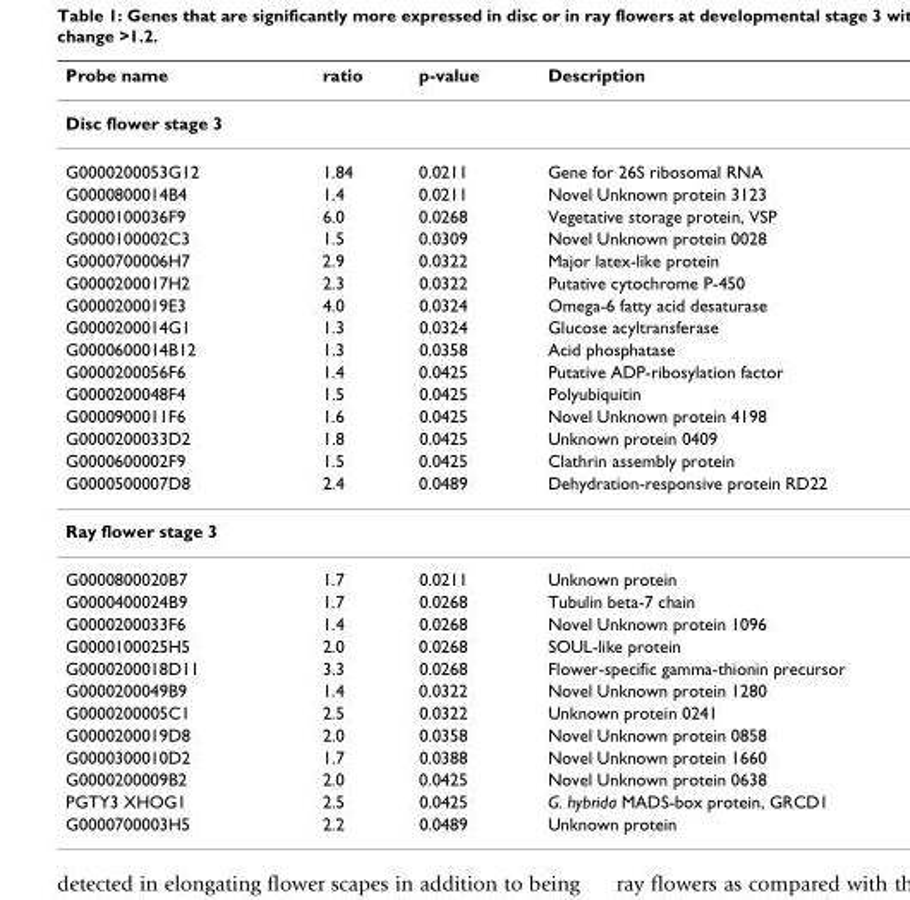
<table><thead><tr><td>Probe name</td><td>ratio</td><td>p-value</td><td>Description</td></tr></thead><tbody><tr><td colspan="4">Disc flower stage 3</td></tr><tr><td>G0000200053G12</td><td>1.84</td><td>0.0211</td><td>Gene for 26S ribosomal RNA</td></tr><tr><td>G0000800014B4</td><td>1.4</td><td>0.0211</td><td>Novel Unknown protein 3123</td></tr><tr><td>G0000100036F9</td><td>6.0</td><td>0.0268</td><td>Vegetative storage protein, VSP</td></tr><tr><td>G0000100002C3</td><td>1.5</td><td>0.0309</td><td>Novel Unknown protein 0028</td></tr><tr><td>G0000700006H7</td><td>2.9</td><td>0.0322</td><td>Major latex-like protein</td></tr><tr><td>G0000200017H2</td><td>2.3</td><td>0.0322</td><td>Putative cytochrome P-450</td></tr><tr><td>G0000200019E3</td><td>4.0</td><td>0.0324</td><td>Omega-6 fatty acid desaturase</td></tr><tr><td>G0000200014G1</td><td>1.3</td><td>0.0324</td><td>Glucose acyltransferase</td></tr><tr><td>G0000600014B12</td><td>1.3</td><td>0.0358</td><td>Acid phosphatase</td></tr><tr><td>G0000200056F6</td><td>1.4</td><td>0.0425</td><td>Putative ADP-ribosylation factor</td></tr><tr><td>G0000200048F4</td><td>1.5</td><td>0.0425</td><td>Polyubiquitin</td></tr><tr><td>G0000900011F6</td><td>1.6</td><td>0.0425</td><td>Novel Unknown protein 4198</td></tr><tr><td>G0000200033D2</td><td>1.8</td><td>0.0425</td><td>Unknown protein 0409</td></tr><tr><td>G0000600002F9</td><td>1.5</td><td>0.0425</td><td>Clathrin assembly protein</td></tr><tr><td>G0000500007D8</td><td>2.4</td><td>0.0489</td><td>Dehydration-responsive protein RD22</td></tr><tr><td colspan="4">Ray flower stage 3</td></tr><tr><td>G0000800020B7</td><td>1.7</td><td>0.0211</td><td>Unknown protein</td></tr><tr><td>G0000400024B9</td><td>1.7</td><td>0.0268</td><td>Tubulin beta-7 chain</td></tr><tr><td>G0000200033F6</td><td>1.4</td><td>0.0268</td><td>Novel Unknown protein 1096</td></tr><tr><td>G0000100025H5</td><td>2.0</td><td>0.0268</td><td>SOUL-like protein</td></tr><tr><td>G0000200018D11</td><td>3.3</td><td>0.0268</td><td>Flower-specific gamma-thionin precursor</td></tr><tr><td>G0000200049B9</td><td>1.4</td><td>0.0322</td><td>Novel Unknown protein 1280</td></tr><tr><td>G0000200005C1</td><td>2.5</td><td>0.0322</td><td>Unknown protein 0241</td></tr><tr><td>G0000200019D8</td><td>2.0</td><td>0.0358</td><td>Novel Unknown protein 0858</td></tr><tr><td>G0000300010D2</td><td>1.7</td><td>0.0388</td><td>Novel Unknown protein 1660</td></tr><tr><td>G0000200009B2</td><td>2.0</td><td>0.0425</td><td>Novel Unknown protein 0638</td></tr><tr><td>PGTY3 XHOG1</td><td>2.5</td><td>0.0425</td><td>G. hybrida MADS-box protein, GRCD1</td></tr><tr><td>G0000700003H5</td><td>2.2</td><td>0.0489</td><td>Unknown protein</td></tr></tbody></table>